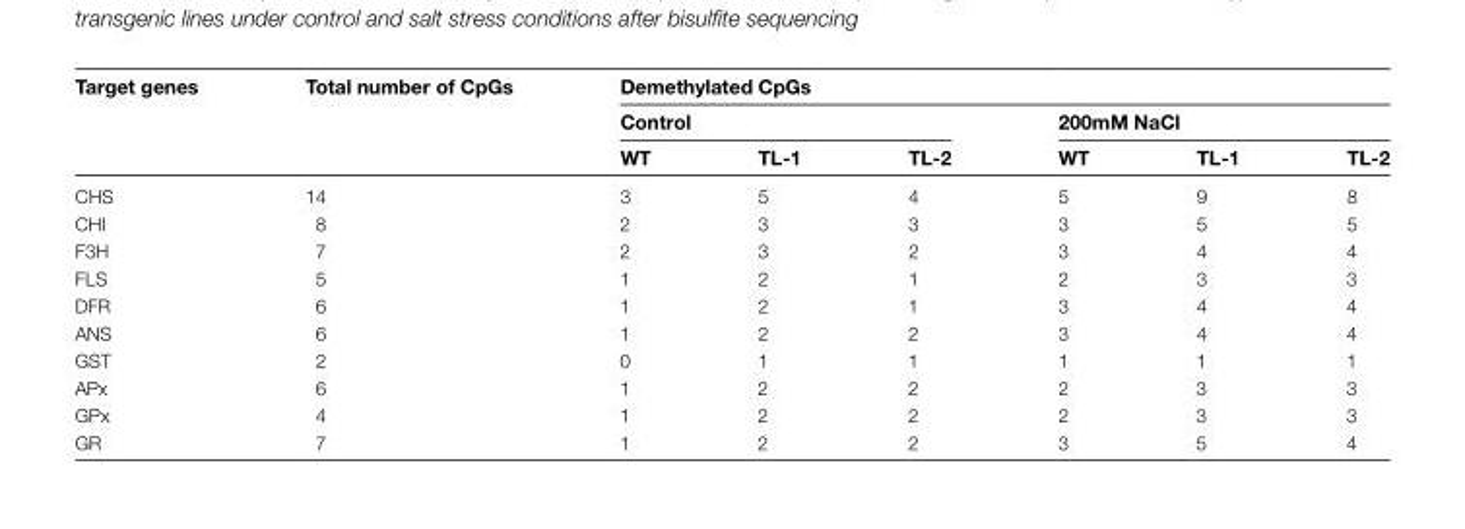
<table><thead><tr><td rowspan="3">Target genes</td><td rowspan="3">Total number of CpGs</td><td colspan="6">Demethylated CpGs</td></tr><tr><td colspan="3">Control</td><td colspan="3">200mM NaCl</td></tr><tr><td>WT</td><td>TL-1</td><td>TL-2</td><td>WT</td><td>TL-1</td><td>TL-2</td></tr></thead><tbody><tr><td>CHS</td><td>14</td><td>3</td><td>5</td><td>4</td><td>5</td><td>9</td><td>8</td></tr><tr><td>CHI</td><td>8</td><td>2</td><td>3</td><td>3</td><td>3</td><td>5</td><td>5</td></tr><tr><td>F3H</td><td>7</td><td>2</td><td>3</td><td>2</td><td>3</td><td>4</td><td>4</td></tr><tr><td>FLS</td><td>5</td><td>1</td><td>2</td><td>1</td><td>2</td><td>3</td><td>3</td></tr><tr><td>DFR</td><td>6</td><td>1</td><td>2</td><td>1</td><td>3</td><td>4</td><td>4</td></tr><tr><td>ANS</td><td>6</td><td>1</td><td>2</td><td>2</td><td>3</td><td>4</td><td>4</td></tr><tr><td>GST</td><td>2</td><td>0</td><td>1</td><td>1</td><td>1</td><td>1</td><td>1</td></tr><tr><td>APx</td><td>6</td><td>1</td><td>2</td><td>2</td><td>2</td><td>3</td><td>3</td></tr><tr><td>GPx</td><td>4</td><td>1</td><td>2</td><td>2</td><td>2</td><td>3</td><td>3</td></tr><tr><td>GR</td><td>7</td><td>1</td><td>2</td><td>2</td><td>3</td><td>5</td><td>4</td></tr></tbody></table>